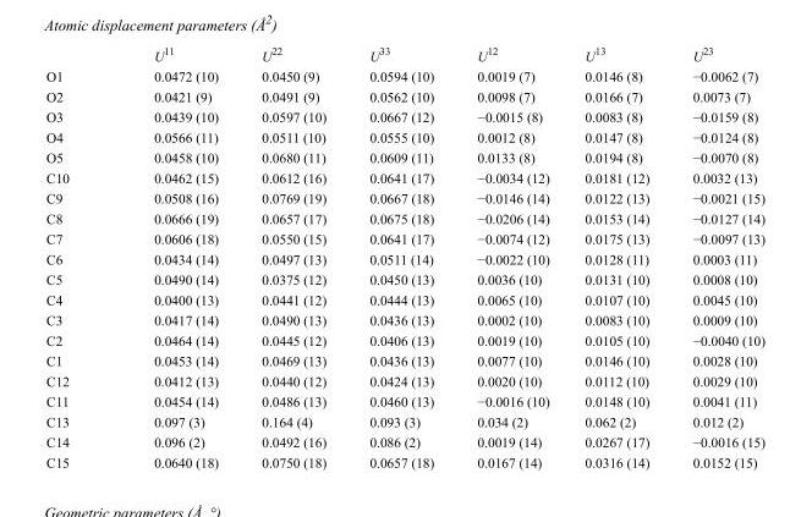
<table><thead><tr><td></td><td>U<sup>11</sup></td><td>U<sup>22</sup></td><td>U<sup>33</sup></td><td>U<sup>12</sup></td><td>U<sup>13</sup></td><td>U<sup>23</sup></td></tr></thead><tbody><tr><td>O1</td><td>0.0472 (10)</td><td>0.0450 (9)</td><td>0.0594 (10)</td><td>0.0019 (7)</td><td>0.0146 (8)</td><td>−0.0062 (7)</td></tr><tr><td>O2</td><td>0.0421 (9)</td><td>0.0491 (9)</td><td>0.0562 (10)</td><td>0.0098 (7)</td><td>0.0166 (7)</td><td>0.0073 (7)</td></tr><tr><td>O3</td><td>0.0439 (10)</td><td>0.0597 (10)</td><td>0.0667 (12)</td><td>−0.0015 (8)</td><td>0.0083 (8)</td><td>−0.0159 (8)</td></tr><tr><td>O4</td><td>0.0566 (11)</td><td>0.0511 (10)</td><td>0.0555 (10)</td><td>0.0012 (8)</td><td>0.0147 (8)</td><td>−0.0124 (8)</td></tr><tr><td>O5</td><td>0.0458 (10)</td><td>0.0680 (11)</td><td>0.0609 (11)</td><td>0.0133 (8)</td><td>0.0194 (8)</td><td>−0.0070 (8)</td></tr><tr><td>C10</td><td>0.0462 (15)</td><td>0.0612 (16)</td><td>0.0641 (17)</td><td>−0.0034 (12)</td><td>0.0181 (12)</td><td>0.0032 (13)</td></tr><tr><td>C9</td><td>0.0508 (16)</td><td>0.0769 (19)</td><td>0.0667 (18)</td><td>−0.0146 (14)</td><td>0.0122 (13)</td><td>−0.0021 (15)</td></tr><tr><td>C8</td><td>0.0666 (19)</td><td>0.0657 (17)</td><td>0.0675 (18)</td><td>−0.0206 (14)</td><td>0.0153 (14)</td><td>−0.0127 (14)</td></tr><tr><td>C7</td><td>0.0606 (18)</td><td>0.0550 (15)</td><td>0.0641 (17)</td><td>−0.0074 (12)</td><td>0.0175 (13)</td><td>−0.0097 (13)</td></tr><tr><td>C6</td><td>0.0434 (14)</td><td>0.0497 (13)</td><td>0.0511 (14)</td><td>−0.0022 (10)</td><td>0.0128 (11)</td><td>0.0003 (11)</td></tr><tr><td>C5</td><td>0.0490 (14)</td><td>0.0375 (12)</td><td>0.0450 (13)</td><td>0.0036 (10)</td><td>0.0131 (10)</td><td>0.0008 (10)</td></tr><tr><td>C4</td><td>0.0400 (13)</td><td>0.0441 (12)</td><td>0.0444 (13)</td><td>0.0065 (10)</td><td>0.0107 (10)</td><td>0.0045 (10)</td></tr><tr><td>C3</td><td>0.0417 (14)</td><td>0.0490 (13)</td><td>0.0436 (13)</td><td>0.0002 (10)</td><td>0.0083 (10)</td><td>0.0009 (10)</td></tr><tr><td>C2</td><td>0.0464 (14)</td><td>0.0445 (12)</td><td>0.0406 (13)</td><td>0.0019 (10)</td><td>0.0105 (10)</td><td>−0.0040 (10)</td></tr><tr><td>C1</td><td>0.0453 (14)</td><td>0.0469 (13)</td><td>0.0436 (13)</td><td>0.0077 (10)</td><td>0.0146 (10)</td><td>0.0028 (10)</td></tr><tr><td>C12</td><td>0.0412 (13)</td><td>0.0440 (12)</td><td>0.0424 (13)</td><td>0.0020 (10)</td><td>0.0112 (10)</td><td>0.0029 (10)</td></tr><tr><td>C11</td><td>0.0454 (14)</td><td>0.0486 (13)</td><td>0.0460 (13)</td><td>−0.0016 (10)</td><td>0.0148 (10)</td><td>0.0041 (11)</td></tr><tr><td>C13</td><td>0.097 (3)</td><td>0.164 (4)</td><td>0.093 (3)</td><td>0.034 (2)</td><td>0.062 (2)</td><td>0.012 (2)</td></tr><tr><td>C14</td><td>0.096 (2)</td><td>0.0492 (16)</td><td>0.086 (2)</td><td>0.0019 (14)</td><td>0.0267 (17)</td><td>−0.0016 (15)</td></tr><tr><td>C15</td><td>0.0640 (18)</td><td>0.0750 (18)</td><td>0.0657 (18)</td><td>0.0167 (14)</td><td>0.0316 (14)</td><td>0.0152 (15)</td></tr></tbody></table>